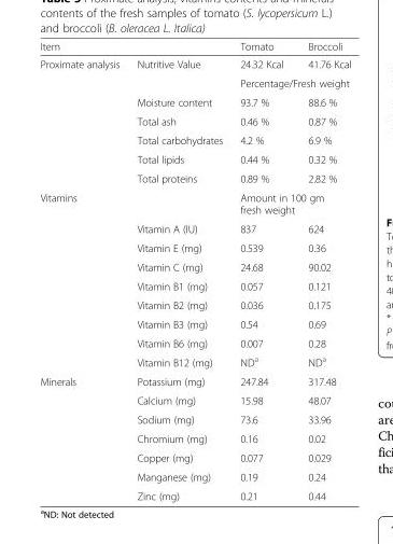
<table><thead><tr><td>Item</td><td></td><td>Tomato</td><td>Broccoli</td></tr></thead><tbody><tr><td rowspan="7">Proximate analysis</td><td>Nutritive Value</td><td>24.32 Kcal</td><td>41.76 Kcal</td></tr><tr><td></td><td colspan="2">Percentage/Fresh weight</td></tr><tr><td>Moisture content</td><td>93.7 %</td><td>88.6 %</td></tr><tr><td>Total ash</td><td>0.46 %</td><td>0.87 %</td></tr><tr><td>Total carbohydrates</td><td>4.2 %</td><td>6.9 %</td></tr><tr><td>Total lipids</td><td>0.44 %</td><td>0.32 %</td></tr><tr><td>Total proteins</td><td>0.89 %</td><td>2.82 %</td></tr><tr><td rowspan="9">Vitamins</td><td></td><td colspan="2">Amount in 100 gm fresh weight</td></tr><tr><td>Vitamin A (IU)</td><td>837</td><td>624</td></tr><tr><td>Vitamin E (mg)</td><td>0.539</td><td>0.36</td></tr><tr><td>Vitamin C (mg)</td><td>24.68</td><td>90.02</td></tr><tr><td>Vitamin B1 (mg)</td><td>0.057</td><td>0.121</td></tr><tr><td>Vitamin B2 (mg)</td><td>0.036</td><td>0.175</td></tr><tr><td>Vitamin B3 (mg)</td><td>0.54</td><td>0.69</td></tr><tr><td>Vitamin B6 (mg)</td><td>0.007</td><td>0.28</td></tr><tr><td>Vitamin B12 (mg)</td><td>ND<sup>a</sup></td><td>ND<sup>a</sup></td></tr><tr><td rowspan="7">Minerals</td><td>Potassium (mg)</td><td>247.84</td><td>317.48</td></tr><tr><td>Calcium (mg)</td><td>15.98</td><td>48.07</td></tr><tr><td>Sodium (mg)</td><td>73.6</td><td>33.96</td></tr><tr><td>Chromium (mg)</td><td>0.16</td><td>0.02</td></tr><tr><td>Copper (mg)</td><td>0.077</td><td>0.029</td></tr><tr><td>Manganese (mg)</td><td>0.19</td><td>0.24</td></tr><tr><td>Zinc (mg)</td><td>0.21</td><td>0.44</td></tr></tbody></table>